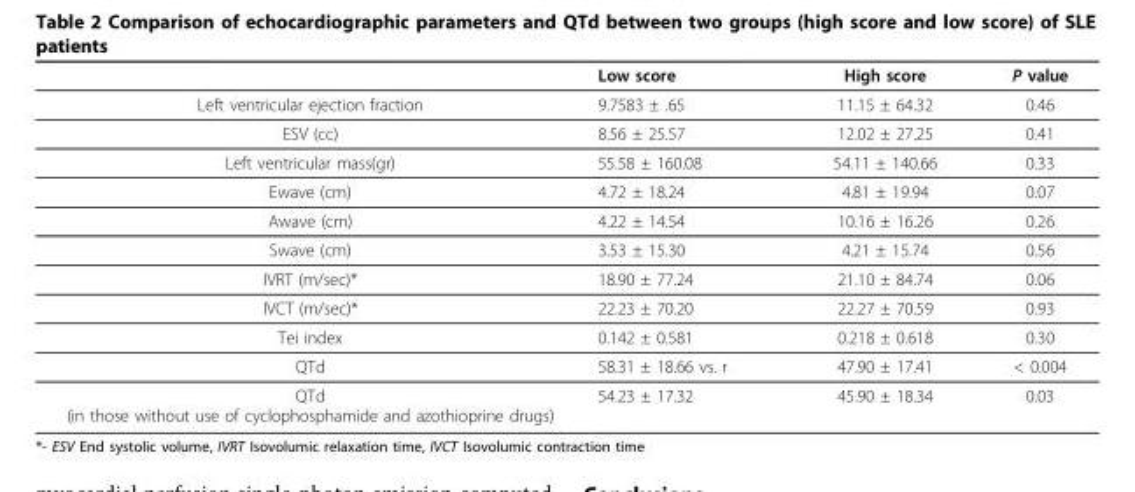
<table><thead><tr><td></td><td>Low score</td><td>High score</td><td>P value</td></tr></thead><tbody><tr><td>Left ventricular ejection fraction</td><td>9.7583 ± .65</td><td>11.15 ± 64.32</td><td>0.46</td></tr><tr><td>ESV (cc)</td><td>8.56 ± 25.57</td><td>12.02 ± 27.25</td><td>0.41</td></tr><tr><td>Left ventricular mass(gr)</td><td>55.58 ± 160.08</td><td>54.11 ± 140.66</td><td>0.33</td></tr><tr><td>Ewave (cm)</td><td>4.72 ± 18.24</td><td>4.81 ± 19.94</td><td>0.07</td></tr><tr><td>Awave (cm)</td><td>4.22 ± 14.54</td><td>10.16 ± 16.26</td><td>0.26</td></tr><tr><td>Swave (cm)</td><td>3.53 ± 15.30</td><td>4.21 ± 15.74</td><td>0.56</td></tr><tr><td>IVRT (m/sec)*</td><td>18.90 ± 77.24</td><td>21.10 ± 84.74</td><td>0.06</td></tr><tr><td>IVCT (m/sec)*</td><td>22.23 ± 70.20</td><td>22.27 ± 70.59</td><td>0.93</td></tr><tr><td>Tei index</td><td>0.142 ± 0.581</td><td>0.218 ± 0.618</td><td>0.30</td></tr><tr><td>QTd</td><td>58.31 ± 18.66 vs. r</td><td>47.90 ± 17.41</td><td>&lt; 0.004</td></tr><tr><td>QTd (in those without use of cyclophosphamide and azothioprine drugs)</td><td>54.23 ± 17.32</td><td>45.90 ± 18.34</td><td>0.03</td></tr></tbody></table>